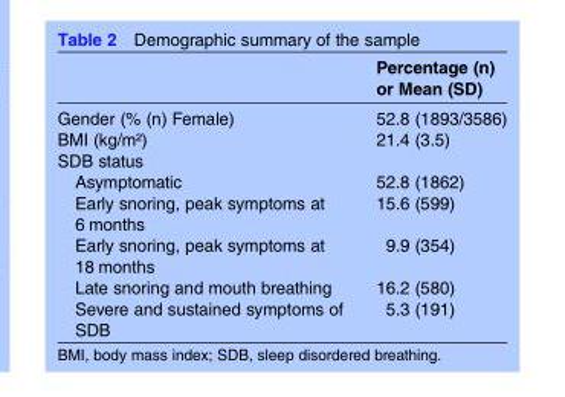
<table><thead><tr><td></td><td>Percentage (n) or Mean (SD)</td></tr></thead><tbody><tr><td>Gender (% (n) Female)</td><td>52.8 (1893/3586)</td></tr><tr><td>BMI (kg/m²)</td><td>21.4 (3.5)</td></tr><tr><td colspan="2">SDB status</td></tr><tr><td>Asymptomatic</td><td>52.8 (1862)</td></tr><tr><td>Early snoring, peak symptoms at 6 months</td><td>15.6 (599)</td></tr><tr><td>Early snoring, peak symptoms at 18 months</td><td>9.9 (354)</td></tr><tr><td>Late snoring and mouth breathing</td><td>16.2 (580)</td></tr><tr><td>Severe and sustained symptoms of SDB</td><td>5.3 (191)</td></tr></tbody></table>